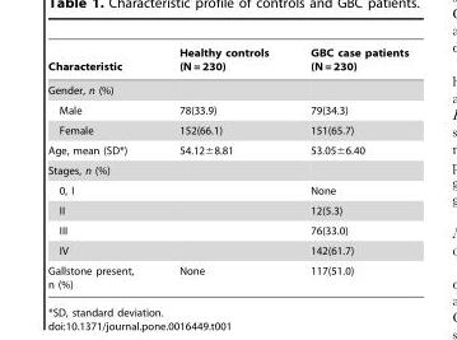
<table><thead><tr><td>Characteristic</td><td>Healthy controls (N = 230)</td><td>GBC case patients (N = 230)</td></tr></thead><tbody><tr><td colspan="3">Gender, n (%)</td></tr><tr><td>Male</td><td>78(33.9)</td><td>79(34.3)</td></tr><tr><td>Female</td><td>152(66.1)</td><td>151(65.7)</td></tr><tr><td>Age, mean (SD*)</td><td>54.12±8.81</td><td>53.05±6.40</td></tr><tr><td colspan="3">Stages, n (%)</td></tr><tr><td>0, I</td><td></td><td>None</td></tr><tr><td>II</td><td></td><td>12(5.3)</td></tr><tr><td>III</td><td></td><td>76(33.0)</td></tr><tr><td>IV</td><td></td><td>142(61.7)</td></tr><tr><td>Gallstone present, n (%)</td><td>None</td><td>117(51.0)</td></tr></tbody></table>